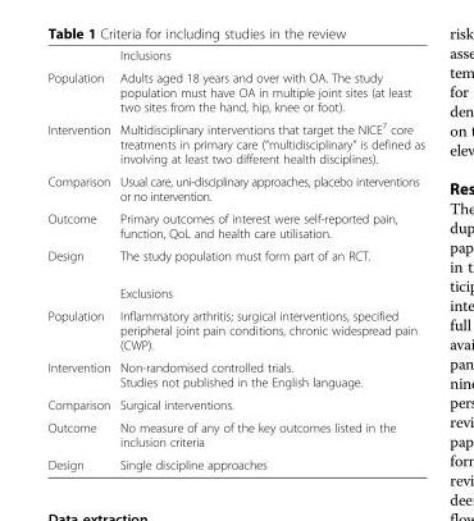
<table><thead><tr><td></td><td>Inclusions</td></tr></thead><tbody><tr><td>Population</td><td>Adults aged 18 years and over with OA. The study population must have OA in multiple joint sites (at least two sites from the hand, hip, knee or foot).</td></tr><tr><td>Intervention</td><td>Multidisciplinary interventions that target the NICE<sup>7</sup> core treatments in primary care (“multidisciplinary” is defined as involving at least two different health disciplines).</td></tr><tr><td>Comparison</td><td>Usual care, uni-disciplinary approaches, placebo interventions or no intervention.</td></tr><tr><td>Outcome</td><td>Primary outcomes of interest were self-reported pain, function, QoL and health care utilisation.</td></tr><tr><td rowspan="2">Design</td><td>The study population must form part of an RCT.</td></tr><tr><td>Exclusions</td></tr><tr><td>Population</td><td>Inflammatory arthritis; surgical interventions, specified peripheral joint pain conditions, chronic widespread pain (CWP).</td></tr><tr><td>Intervention</td><td>Non-randomised controlled trials. Studies not published in the English language.</td></tr><tr><td>Comparison</td><td>Surgical interventions.</td></tr><tr><td>Outcome</td><td>No measure of any of the key outcomes listed in the inclusion criteria</td></tr><tr><td>Design</td><td>Single discipline approaches</td></tr></tbody></table>